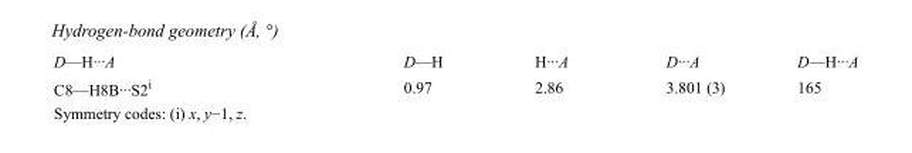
<table><tbody><tr><td>D—H···A</td><td>D—H</td><td>H···A</td><td>D···A</td><td>D—H···A</td></tr><tr><td>C8—H8B···S2<sup>i</sup></td><td>0.97</td><td>2.86</td><td>3.801 (3)</td><td>165</td></tr></tbody></table>